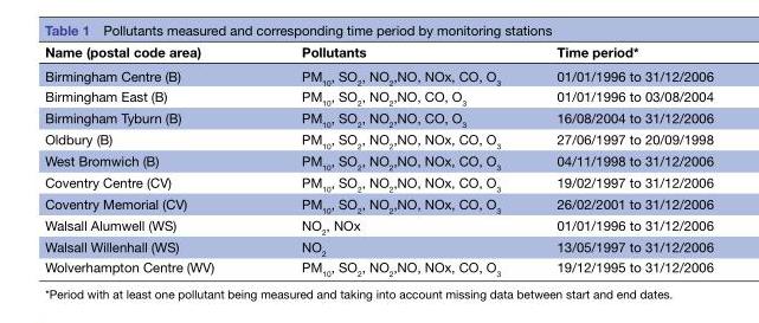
<table><thead><tr><td>Name (postal code area)</td><td>Pollutants</td><td>Time period*</td></tr></thead><tbody><tr><td>Birmingham Centre (B)</td><td>PM<sub>10</sub>, SO<sub>2</sub>, NO<sub>2</sub>,NO, NOx, CO, O<sub>3</sub></td><td>01/01/1996 to 31/12/2006</td></tr><tr><td>Birmingham East (B)</td><td>PM<sub>10</sub>, SO<sub>2</sub>, NO<sub>2</sub>,NO, CO, O<sub>3</sub></td><td>01/01/1996 to 03/08/2004</td></tr><tr><td>Birmingham Tyburn (B)</td><td>PM<sub>10</sub>, SO<sub>2</sub>, NO<sub>2</sub>,NO, CO, O<sub>3</sub></td><td>16/08/2004 to 31/12/2006</td></tr><tr><td>Oldbury (B)</td><td>PM<sub>10</sub>, SO<sub>2</sub>, NO<sub>2</sub>,NO, NOx, CO, O<sub>3</sub></td><td>27/06/1997 to 20/09/1998</td></tr><tr><td>West Bromwich (B)</td><td>PM<sub>10</sub>, SO<sub>2</sub>, NO<sub>2</sub>,NO, NOx, CO, O<sub>3</sub></td><td>04/11/1998 to 31/12/2006</td></tr><tr><td>Coventry Centre (CV)</td><td>PM<sub>10</sub>, SO<sub>2</sub>, NO<sub>2</sub>,NO, NOx, CO, O<sub>3</sub></td><td>19/02/1997 to 31/12/2006</td></tr><tr><td>Coventry Memorial (CV)</td><td>PM<sub>10</sub>, SO<sub>2</sub>, NO<sub>2</sub>,NO, NOx, CO, O<sub>3</sub></td><td>26/02/2001 to 31/12/2006</td></tr><tr><td>Walsall Alumwell (WS)</td><td>NO<sub>2</sub>, NOx</td><td>01/01/1996 to 31/12/2006</td></tr><tr><td>Walsall Willenhall (WS)</td><td>NO<sub>2</sub></td><td>13/05/1997 to 31/12/2006</td></tr><tr><td>Wolverhampton Centre (WV)</td><td>PM<sub>10</sub>, SO<sub>2</sub>, NO<sub>2</sub>,NO, NOx, CO, O<sub>3</sub></td><td>19/12/1995 to 31/12/2006</td></tr></tbody></table>